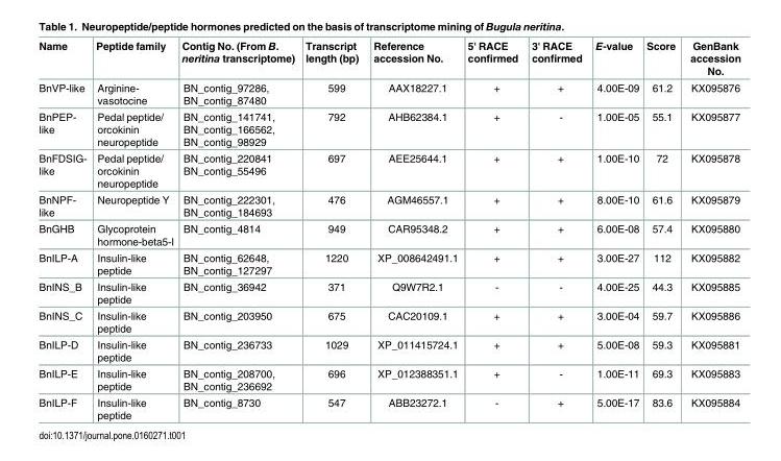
<table><thead><tr><td>Name</td><td>Peptide family</td><td>Contig No. (From B. neritina transcriptome)</td><td>Transcript length (bp)</td><td>Reference accession No.</td><td>5&#x27; RACE confirmed</td><td>3&#x27; RACE confirmed</td><td>E-value</td><td>Score</td><td>GenBank accession No.</td></tr></thead><tbody><tr><td>BnVP-like</td><td>Arginine- vasotocine</td><td>BN_contig_97286, BN_contig_87480</td><td>599</td><td>AAX18227.1</td><td>+</td><td>+</td><td>4.00E-09</td><td>61.2</td><td>KX095876</td></tr><tr><td>BnPEP- like</td><td>Pedal peptide/ orcokinin neuropeptide</td><td>BN_contig_141741, BN_contig_166562, BN_contig_98929</td><td>792</td><td>AHB62384.1</td><td>+</td><td>-</td><td>1.00E-05</td><td>55.1</td><td>KX095877</td></tr><tr><td>BnFDSIG- like</td><td>Pedal peptide/ orcokinin neuropeptide</td><td>BN_contig_220841 BN_contig_55496</td><td>697</td><td>AEE25644.1</td><td>+</td><td>+</td><td>1.00E-10</td><td>72</td><td>KX095878</td></tr><tr><td>BnNPF- like</td><td>Neuropeptide Y</td><td>BN_contig_222301, BN_contig_184693</td><td>476</td><td>AGM46557.1</td><td>+</td><td>+</td><td>8.00E-10</td><td>61.6</td><td>KX095879</td></tr><tr><td>BnGHB</td><td>Glycoprotein hormone-beta5-I</td><td>BN_contig_4814</td><td>949</td><td>CAR95348.2</td><td>+</td><td>+</td><td>6.00E-08</td><td>57.4</td><td>KX095880</td></tr><tr><td>BnILP-A</td><td>Insulin-like peptide</td><td>BN_contig_62648, BN_contig_127297</td><td>1220</td><td>XP_008642491.1</td><td>+</td><td>+</td><td>3.00E-27</td><td>112</td><td>KX095882</td></tr><tr><td>BnINS_B</td><td>Insulin-like peptide</td><td>BN_contig_36942</td><td>371</td><td>Q9W7R2.1</td><td>-</td><td>-</td><td>4.00E-25</td><td>44.3</td><td>KX095885</td></tr><tr><td>BnINS_C</td><td>Insulin-like peptide</td><td>BN_contig_203950</td><td>675</td><td>CAC20109.1</td><td>+</td><td>+</td><td>3.00E-04</td><td>59.7</td><td>KX095886</td></tr><tr><td>BnILP-D</td><td>Insulin-like peptide</td><td>BN_contig_236733</td><td>1029</td><td>XP_011415724.1</td><td>+</td><td>+</td><td>5.00E-08</td><td>59.3</td><td>KX095881</td></tr><tr><td>BnILP-E</td><td>Insulin-like peptide</td><td>BN_contig_208700, BN_contig_236692</td><td>696</td><td>XP_012388351.1</td><td>+</td><td>-</td><td>1.00E-11</td><td>69.3</td><td>KX095883</td></tr><tr><td>BnILP-F</td><td>Insulin-like peptide</td><td>BN_contig_8730</td><td>547</td><td>ABB23272.1</td><td>-</td><td>+</td><td>5.00E-17</td><td>83.6</td><td>KX095884</td></tr></tbody></table>